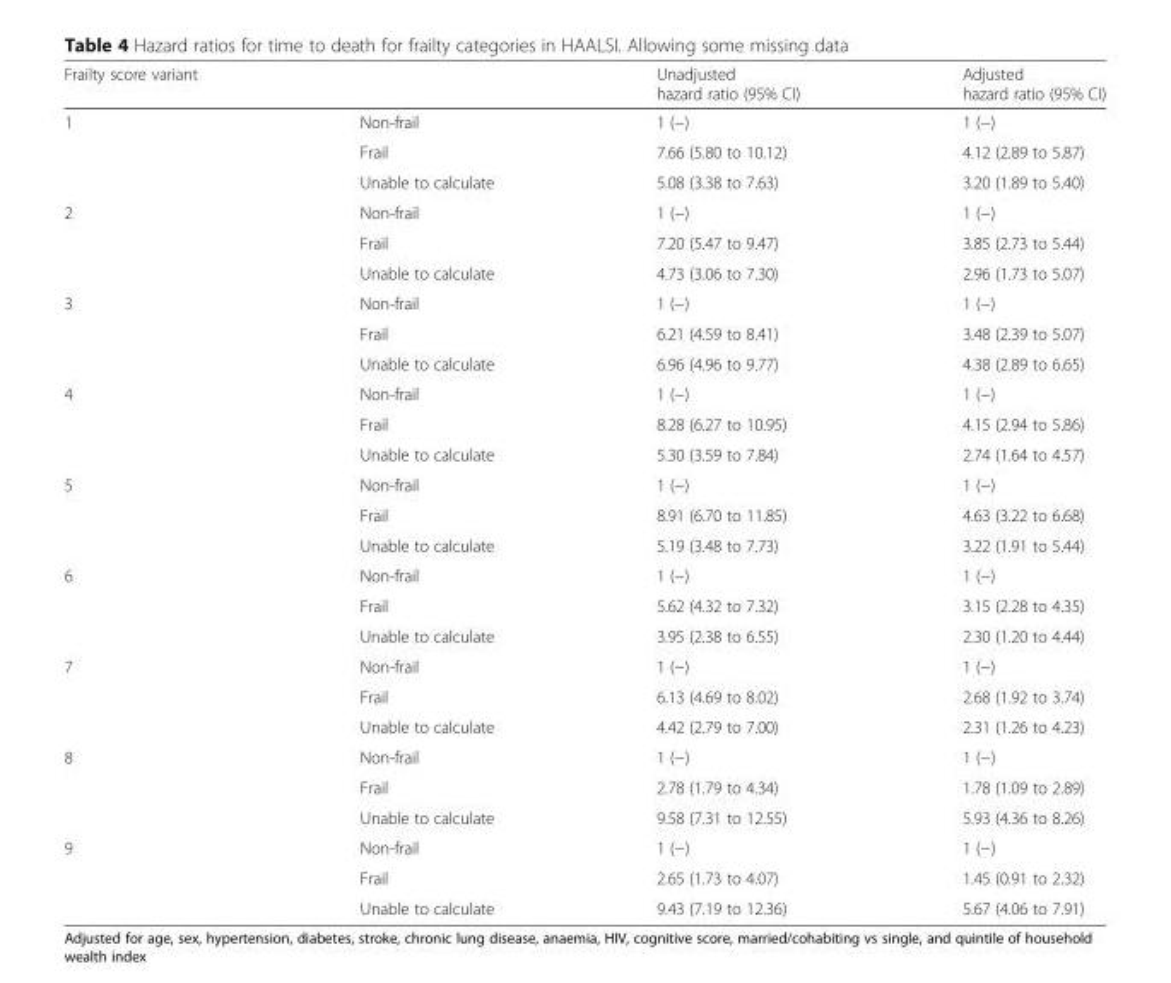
<table><thead><tr><td>Frailty score variant</td><td></td><td>Unadjusted hazard ratio (95% CI)</td><td>Adjusted hazard ratio (95% CI)</td></tr></thead><tbody><tr><td rowspan="3">1</td><td>Non-frail</td><td>1 (−)</td><td>1 (−)</td></tr><tr><td>Frail</td><td>7.66 (5.80 to 10.12)</td><td>4.12 (2.89 to 5.87)</td></tr><tr><td>Unable to calculate</td><td>5.08 (3.38 to 7.63)</td><td>3.20 (1.89 to 5.40)</td></tr><tr><td rowspan="3">2</td><td>Non-frail</td><td>1 (−)</td><td>1 (−)</td></tr><tr><td>Frail</td><td>7.20 (5.47 to 9.47)</td><td>3.85 (2.73 to 5.44)</td></tr><tr><td>Unable to calculate</td><td>4.73 (3.06 to 7.30)</td><td>2.96 (1.73 to 5.07)</td></tr><tr><td rowspan="3">3</td><td>Non-frail</td><td>1 (−)</td><td>1 (−)</td></tr><tr><td>Frail</td><td>6.21 (4.59 to 8.41)</td><td>3.48 (2.39 to 5.07)</td></tr><tr><td>Unable to calculate</td><td>6.96 (4.96 to 9.77)</td><td>4.38 (2.89 to 6.65)</td></tr><tr><td rowspan="3">4</td><td>Non-frail</td><td>1 (−)</td><td>1 (−)</td></tr><tr><td>Frail</td><td>8.28 (6.27 to 10.95)</td><td>4.15 (2.94 to 5.86)</td></tr><tr><td>Unable to calculate</td><td>5.30 (3.59 to 7.84)</td><td>2.74 (1.64 to 4.57)</td></tr><tr><td rowspan="3">5</td><td>Non-frail</td><td>1 (−)</td><td>1 (−)</td></tr><tr><td>Frail</td><td>8.91 (6.70 to 11.85)</td><td>4.63 (3.22 to 6.68)</td></tr><tr><td>Unable to calculate</td><td>5.19 (3.48 to 7.73)</td><td>3.22 (1.91 to 5.44)</td></tr><tr><td rowspan="3">6</td><td>Non-frail</td><td>1 (−)</td><td>1 (−)</td></tr><tr><td>Frail</td><td>5.62 (4.32 to 7.32)</td><td>3.15 (2.28 to 4.35)</td></tr><tr><td>Unable to calculate</td><td>3.95 (2.38 to 6.55)</td><td>2.30 (1.20 to 4.44)</td></tr><tr><td rowspan="3">7</td><td>Non-frail</td><td>1 (−)</td><td>1 (−)</td></tr><tr><td>Frail</td><td>6.13 (4.69 to 8.02)</td><td>2.68 (1.92 to 3.74)</td></tr><tr><td>Unable to calculate</td><td>4.42 (2.79 to 7.00)</td><td>2.31 (1.26 to 4.23)</td></tr><tr><td rowspan="3">8</td><td>Non-frail</td><td>1 (−)</td><td>1 (−)</td></tr><tr><td>Frail</td><td>2.78 (1.79 to 4.34)</td><td>1.78 (1.09 to 2.89)</td></tr><tr><td>Unable to calculate</td><td>9.58 (7.31 to 12.55)</td><td>5.93 (4.36 to 8.26)</td></tr><tr><td rowspan="3">9</td><td>Non-frail</td><td>1 (−)</td><td>1 (−)</td></tr><tr><td>Frail</td><td>2.65 (1.73 to 4.07)</td><td>1.45 (0.91 to 2.32)</td></tr><tr><td>Unable to calculate</td><td>9.43 (7.19 to 12.36)</td><td>5.67 (4.06 to 7.91)</td></tr></tbody></table>